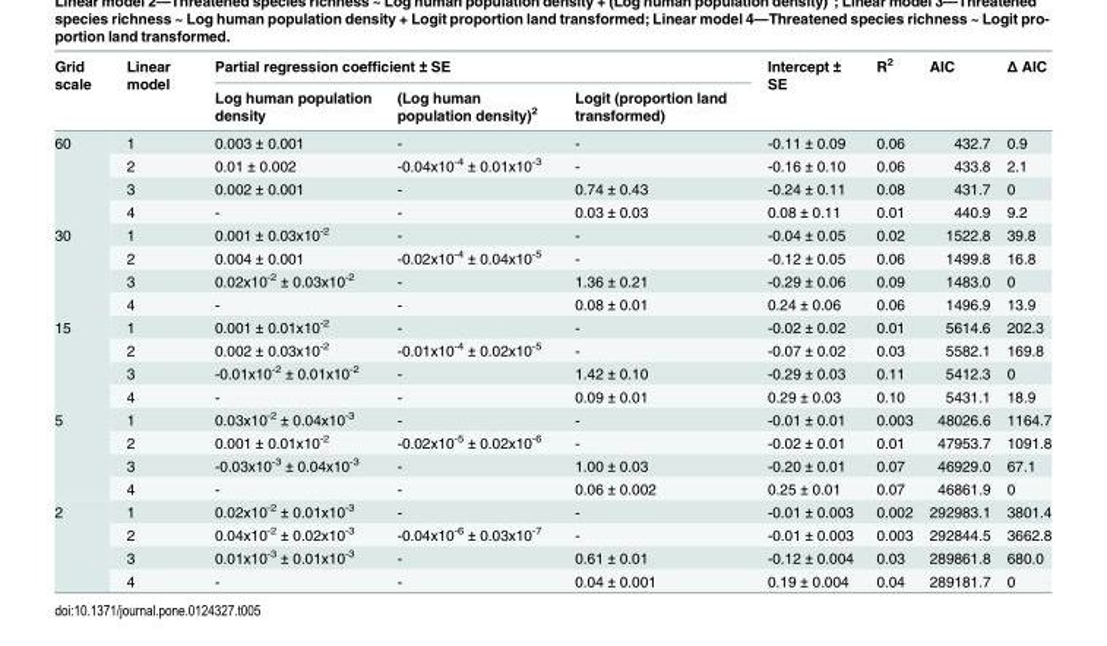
<table><thead><tr><td rowspan="2">Grid scale</td><td rowspan="2">Linear model</td><td colspan="3">Partial regression coefficient ± SE</td><td rowspan="2">Intercept ± SE</td><td rowspan="2">R<sup>2</sup></td><td rowspan="2">AIC</td><td rowspan="2">Δ AIC</td></tr><tr><td>Log human population density</td><td>(Log human population density)<sup>2</sup></td><td>Logit (proportion land transformed)</td></tr></thead><tbody><tr><td rowspan="4">60</td><td>1</td><td>0.003 ± 0.001</td><td>-</td><td>-</td><td>-0.11 ± 0.09</td><td>0.06</td><td>432.7</td><td>0.9</td></tr><tr><td>2</td><td>0.01 ± 0.002</td><td>-0.04x10<sup>-4</sup> ± 0.01x10<sup>-3</sup></td><td>-</td><td>-0.16 ± 0.10</td><td>0.06</td><td>433.8</td><td>2.1</td></tr><tr><td>3</td><td>0.002 ± 0.001</td><td>-</td><td>0.74 ± 0.43</td><td>-0.24 ± 0.11</td><td>0.08</td><td>431.7</td><td>0</td></tr><tr><td>4</td><td>-</td><td>-</td><td>0.03 ± 0.03</td><td>0.08 ± 0.11</td><td>0.01</td><td>440.9</td><td>9.2</td></tr><tr><td rowspan="4">30</td><td>1</td><td>0.001 ± 0.03x10<sup>-2</sup></td><td>-</td><td>-</td><td>-0.04 ± 0.05</td><td>0.02</td><td>1522.8</td><td>39.8</td></tr><tr><td>2</td><td>0.004 ± 0.001</td><td>-0.02x10<sup>-4</sup> ± 0.04x10<sup>-5</sup></td><td>-</td><td>-0.12 ± 0.05</td><td>0.06</td><td>1499.8</td><td>16.8</td></tr><tr><td>3</td><td>0.02x10<sup>-2</sup> ± 0.03x10<sup>-2</sup></td><td>-</td><td>1.36 ± 0.21</td><td>-0.29 ± 0.06</td><td>0.09</td><td>1483.0</td><td>0</td></tr><tr><td>4</td><td>-</td><td>-</td><td>0.08 ± 0.01</td><td>0.24 ± 0.06</td><td>0.06</td><td>1496.9</td><td>13.9</td></tr><tr><td rowspan="4">15</td><td>1</td><td>0.001 ± 0.01x10<sup>-2</sup></td><td>-</td><td>-</td><td>-0.02 ± 0.02</td><td>0.01</td><td>5614.6</td><td>202.3</td></tr><tr><td>2</td><td>0.002 ± 0.03x10<sup>-2</sup></td><td>-0.01x10<sup>-4</sup> ± 0.02x10<sup>-5</sup></td><td>-</td><td>-0.07 ± 0.02</td><td>0.03</td><td>5582.1</td><td>169.8</td></tr><tr><td>3</td><td>-0.01x10<sup>-2</sup> ± 0.01x10<sup>-2</sup></td><td>-</td><td>1.42 ± 0.10</td><td>-0.29 ± 0.03</td><td>0.11</td><td>5412.3</td><td>0</td></tr><tr><td>4</td><td>-</td><td>-</td><td>0.09 ± 0.01</td><td>0.29 ± 0.03</td><td>0.10</td><td>5431.1</td><td>18.9</td></tr><tr><td rowspan="4">5</td><td>1</td><td>0.03x10<sup>-2</sup> ± 0.04x10<sup>-3</sup></td><td>-</td><td>-</td><td>-0.01 ± 0.01</td><td>0.003</td><td>48026.6</td><td>1164.7</td></tr><tr><td>2</td><td>0.001 ± 0.01x10<sup>-2</sup></td><td>-0.02x10<sup>-5</sup> ± 0.02x10<sup>-6</sup></td><td>-</td><td>-0.02 ± 0.01</td><td>0.01</td><td>47953.7</td><td>1091.8</td></tr><tr><td>3</td><td>-0.03x10<sup>-3</sup> ± 0.04x10<sup>-3</sup></td><td>-</td><td>1.00 ± 0.03</td><td>-0.20 ± 0.01</td><td>0.07</td><td>46929.0</td><td>67.1</td></tr><tr><td>4</td><td>-</td><td>-</td><td>0.06 ± 0.002</td><td>0.25 ± 0.01</td><td>0.07</td><td>46861.9</td><td>0</td></tr><tr><td rowspan="4">2</td><td>1</td><td>0.02x10<sup>-2</sup> ± 0.01x10<sup>-3</sup></td><td>-</td><td>-</td><td>-0.01 ± 0.003</td><td>0.002</td><td>292983.1</td><td>3801.4</td></tr><tr><td>2</td><td>0.04x10<sup>-2</sup> ± 0.02x10<sup>-3</sup></td><td>-0.04x10<sup>-6</sup> ± 0.03x10<sup>-7</sup></td><td>-</td><td>-0.01 ± 0.003</td><td>0.003</td><td>292844.5</td><td>3662.8</td></tr><tr><td>3</td><td>0.01x10<sup>-3</sup> ± 0.01x10<sup>-3</sup></td><td>-</td><td>0.61 ± 0.01</td><td>-0.12 ± 0.004</td><td>0.03</td><td>289861.8</td><td>680.0</td></tr><tr><td>4</td><td>-</td><td>-</td><td>0.04 ± 0.001</td><td>0.19 ± 0.004</td><td>0.04</td><td>289181.7</td><td>0</td></tr></tbody></table>